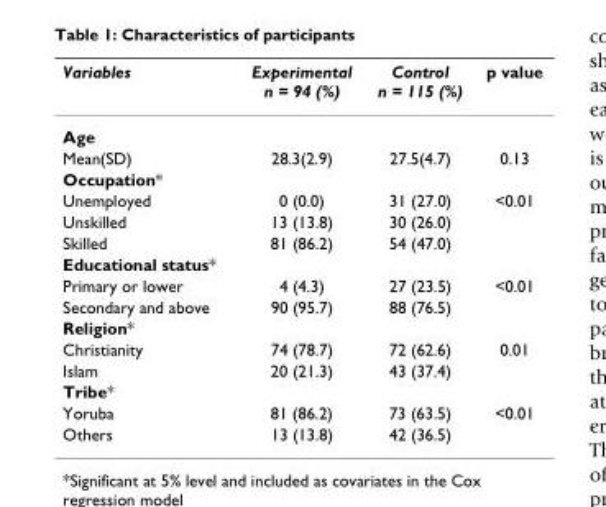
<table><thead><tr><td>Variables</td><td>Experimental n = 94 (%)</td><td>Control n = 115 (%)</td><td>p value</td></tr></thead><tbody><tr><td colspan="4">Age</td></tr><tr><td>Mean(SD)</td><td>28.3(2.9)</td><td>27.5(4.7)</td><td>0.13</td></tr><tr><td colspan="4">Occupation*</td></tr><tr><td>Unemployed</td><td>0 (0.0)</td><td>31 (27.0)</td><td>&lt;0.01</td></tr><tr><td>Unskilled</td><td>13 (13.8)</td><td>30 (26.0)</td><td></td></tr><tr><td>Skilled</td><td>81 (86.2)</td><td>54 (47.0)</td><td></td></tr><tr><td colspan="4">Educational status*</td></tr><tr><td>Primary or lower</td><td>4 (4.3)</td><td>27 (23.5)</td><td>&lt;0.01</td></tr><tr><td>Secondary and above</td><td>90 (95.7)</td><td>88 (76.5)</td><td></td></tr><tr><td colspan="4">Religion*</td></tr><tr><td>Christianity</td><td>74 (78.7)</td><td>72 (62.6)</td><td>0.01</td></tr><tr><td>Islam</td><td>20 (21.3)</td><td>43 (37.4)</td><td></td></tr><tr><td colspan="4">Tribe*</td></tr><tr><td>Yoruba</td><td>81 (86.2)</td><td>73 (63.5)</td><td>&lt;0.01</td></tr><tr><td>Others</td><td>13 (13.8)</td><td>42 (36.5)</td><td></td></tr></tbody></table>